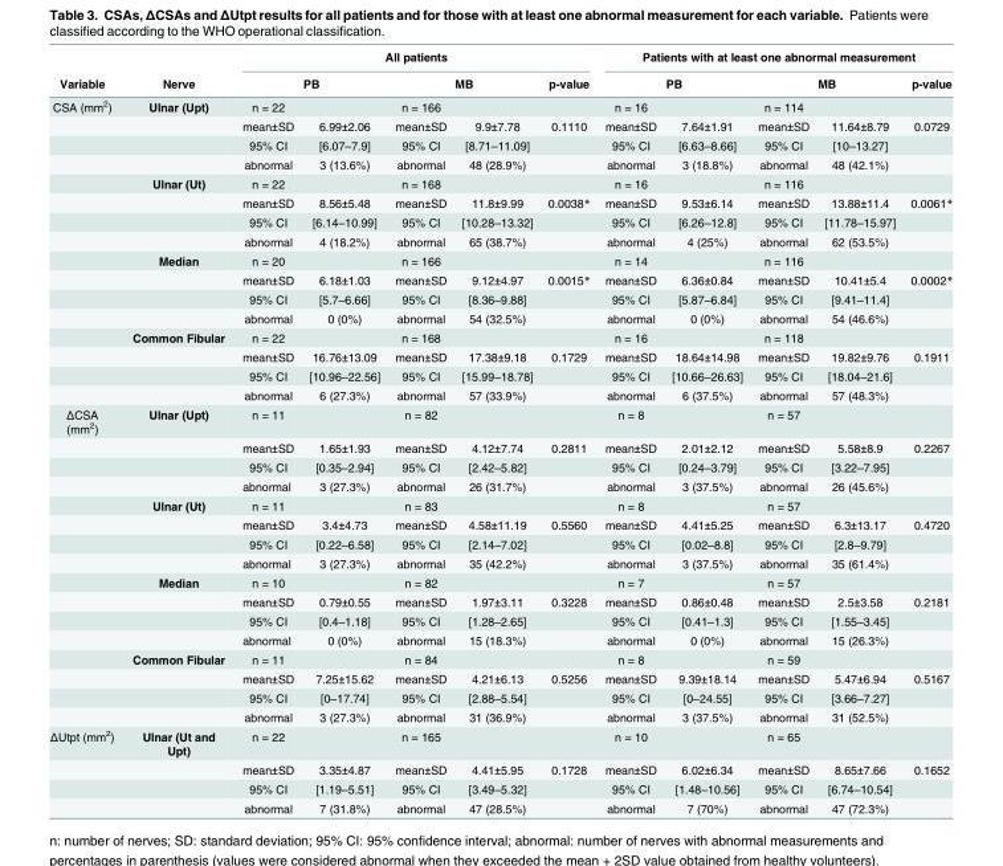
<table><thead><tr><td rowspan="3">Variable CSA (mm<sup>2</sup>)</td><td rowspan="3">Nerve Ulnar (Upt)</td><td colspan="5">All patients</td><td colspan="5">Patients with at least one abnormal measurement</td></tr><tr><td colspan="2">PB</td><td colspan="2">MB</td><td rowspan="2">p-value</td><td colspan="2">PB</td><td colspan="2">MB</td><td rowspan="2">p-value</td></tr><tr><td>n = 22</td><td></td><td>n = 166</td><td></td><td>n = 16</td><td></td><td>n = 114</td><td></td></tr></thead><tbody><tr><td></td><td></td><td>mean±SD</td><td>6.99±2.06</td><td>mean±SD</td><td>9.9±7.78</td><td>0.1110</td><td>mean±SD</td><td>7.64±1.91</td><td>mean±SD</td><td>11.64±8.79</td><td>0.0729</td></tr><tr><td></td><td></td><td>95% CI</td><td>[6.07–7.9]</td><td>95% CI</td><td>[8.71–11.09]</td><td></td><td>95% CI</td><td>[6.63–8.66]</td><td>95% CI</td><td>[10–13.27]</td><td></td></tr><tr><td></td><td></td><td>abnormal</td><td>3 (13.6%)</td><td>abnormal</td><td>48 (28.9%)</td><td></td><td>abnormal</td><td>3 (18.8%)</td><td>abnormal</td><td>48 (42.1%)</td><td></td></tr><tr><td></td><td>Ulnar (Ut)</td><td>n = 22</td><td></td><td>n = 168</td><td></td><td></td><td>n = 16</td><td></td><td>n = 116</td><td></td><td></td></tr><tr><td></td><td></td><td>mean±SD</td><td>8.56±5.48</td><td>mean±SD</td><td>11.8±9.99</td><td>0.0038*</td><td>mean±SD</td><td>9.53±6.14</td><td>mean±SD</td><td>13.88±11.4</td><td>0.0061*</td></tr><tr><td></td><td></td><td>95% CI</td><td>[6.14–10.99]</td><td>95% CI</td><td>[10.28–13.32]</td><td></td><td>95% CI</td><td>[6.26–12.8]</td><td>95% CI</td><td>[11.78–15.97]</td><td></td></tr><tr><td></td><td></td><td>abnormal</td><td>4 (18.2%)</td><td>abnormal</td><td>65 (38.7%)</td><td></td><td>abnormal</td><td>4 (25%)</td><td>abnormal</td><td>62 (53.5%)</td><td></td></tr><tr><td></td><td>Median</td><td>n = 20</td><td></td><td>n = 166</td><td></td><td></td><td>n = 14</td><td></td><td>n = 116</td><td></td><td></td></tr><tr><td></td><td></td><td>mean±SD</td><td>6.18±1.03</td><td>mean±SD</td><td>9.12±4.97</td><td>0.0015*</td><td>mean±SD</td><td>6.36±0.84</td><td>mean±SD</td><td>10.41±5.4</td><td>0.0002*</td></tr><tr><td></td><td></td><td>95% CI</td><td>[5.7–6.66]</td><td>95% CI</td><td>[8.36–9.88]</td><td></td><td>95% CI</td><td>[5.87–6.84]</td><td>95% CI</td><td>[9.41–11.4]</td><td></td></tr><tr><td></td><td></td><td>abnormal</td><td>0 (0%)</td><td>abnormal</td><td>54 (32.5%)</td><td></td><td>abnormal</td><td>0 (0%)</td><td>abnormal</td><td>54 (46.6%)</td><td></td></tr><tr><td></td><td>Common Fibular</td><td>n = 22</td><td></td><td>n = 168</td><td></td><td></td><td>n = 16</td><td></td><td>n = 118</td><td></td><td></td></tr><tr><td></td><td></td><td>mean±SD</td><td>16.76±13.09</td><td>mean±SD</td><td>17.38±9.18</td><td>0.1729</td><td>mean±SD</td><td>18.64±14.98</td><td>mean±SD</td><td>19.82±9.76</td><td>0.1911</td></tr><tr><td></td><td></td><td>95% CI</td><td>[10.96–22.56]</td><td>95% CI</td><td>[15.99–18.78]</td><td></td><td>95% CI</td><td>[10.66–26.63]</td><td>95% CI</td><td>[18.04–21.6]</td><td></td></tr><tr><td></td><td></td><td>abnormal</td><td>6 (27.3%)</td><td>abnormal</td><td>57 (33.9%)</td><td></td><td>abnormal</td><td>6 (37.5%)</td><td>abnormal</td><td>57 (48.3%)</td><td></td></tr><tr><td rowspan="16">ΔCSA (mm<sup>2</sup>)</td><td>Ulnar (Upt)</td><td>n = 11</td><td></td><td>n = 82</td><td></td><td></td><td>n = 8</td><td></td><td>n = 57</td><td></td><td></td></tr><tr><td></td><td>mean±SD</td><td>1.65±1.93</td><td>mean±SD</td><td>4.12±7.74</td><td>0.2811</td><td>mean±SD</td><td>2.01±2.12</td><td>mean±SD</td><td>5.58±8.9</td><td>0.2267</td></tr><tr><td></td><td>95% CI</td><td>[0.35–2.94]</td><td>95% CI</td><td>[2.42–5.82]</td><td></td><td>95% CI</td><td>[0.24–3.79]</td><td>95% CI</td><td>[3.22–7.95]</td><td></td></tr><tr><td></td><td>abnormal</td><td>3 (27.3%)</td><td>abnormal</td><td>26 (31.7%)</td><td></td><td>abnormal</td><td>3 (37.5%)</td><td>abnormal</td><td>26 (45.6%)</td><td></td></tr><tr><td>Ulnar (Ut)</td><td>n = 11</td><td></td><td>n = 83</td><td></td><td></td><td>n = 8</td><td></td><td>n = 57</td><td></td><td></td></tr><tr><td></td><td>mean±SD</td><td>3.4±4.73</td><td>mean±SD</td><td>4.58±11.19</td><td>0.5560</td><td>mean±SD</td><td>4.41±5.25</td><td>mean±SD</td><td>6.3±13.17</td><td>0.4720</td></tr><tr><td></td><td>95% CI</td><td>[0.22–6.58]</td><td>95% CI</td><td>[2.14–7.02]</td><td></td><td>95% CI</td><td>[0.02–8.8]</td><td>95% CI</td><td>[2.8–9.79]</td><td></td></tr><tr><td></td><td>abnormal</td><td>3 (27.3%)</td><td>abnormal</td><td>35 (42.2%)</td><td></td><td>abnormal</td><td>3 (37.5%)</td><td>abnormal</td><td>35 (61.4%)</td><td></td></tr><tr><td>Median</td><td>n = 10</td><td></td><td>n = 82</td><td></td><td></td><td>n = 7</td><td></td><td>n = 57</td><td></td><td></td></tr><tr><td></td><td>mean±SD</td><td>0.79±0.55</td><td>mean±SD</td><td>1.97±3.11</td><td>0.3228</td><td>mean±SD</td><td>0.86±0.48</td><td>mean±SD</td><td>2.5±3.58</td><td>0.2181</td></tr><tr><td></td><td>95% CI</td><td>[0.4–1.18]</td><td>95% CI</td><td>[1.28–2.65]</td><td></td><td>95% CI</td><td>[0.41–1.3]</td><td>95% CI</td><td>[1.55–3.45]</td><td></td></tr><tr><td></td><td>abnormal</td><td>0 (0%)</td><td>abnormal</td><td>15 (18.3%)</td><td></td><td>abnormal</td><td>0 (0%)</td><td>abnormal</td><td>15 (26.3%)</td><td></td></tr><tr><td>Common Fibular</td><td>n = 11</td><td></td><td>n = 84</td><td></td><td></td><td>n = 8</td><td></td><td>n = 59</td><td></td><td></td></tr><tr><td></td><td>mean±SD</td><td>7.25±15.62</td><td>mean±SD</td><td>4.21±6.13</td><td>0.5256</td><td>mean±SD</td><td>9.39±18.14</td><td>mean±SD</td><td>5.47±6.94</td><td>0.5167</td></tr><tr><td></td><td>95% CI</td><td>[0–17.74]</td><td>95% CI</td><td>[2.88–5.54]</td><td></td><td>95% CI</td><td>[0–24.55]</td><td>95% CI</td><td>[3.66–7.27]</td><td></td></tr><tr><td></td><td>abnormal</td><td>3 (27.3%)</td><td>abnormal</td><td>31 (36.9%)</td><td></td><td>abnormal</td><td>3 (37.5%)</td><td>abnormal</td><td>31 (52.5%)</td><td></td></tr><tr><td rowspan="4">ΔUtpt (mm<sup>2</sup>)</td><td>Ulnar (Ut and Upt)</td><td>n = 22</td><td></td><td>n = 165</td><td></td><td></td><td>n = 10</td><td></td><td>n = 65</td><td></td><td></td></tr><tr><td></td><td>mean±SD</td><td>3.35±4.87</td><td>mean±SD</td><td>4.41±5.95</td><td>0.1728</td><td>mean±SD</td><td>6.02±6.34</td><td>mean±SD</td><td>8.65±7.66</td><td>0.1652</td></tr><tr><td></td><td>95% CI</td><td>[1.19–5.51]</td><td>95% CI</td><td>[3.49–5.32]</td><td></td><td>95% CI</td><td>[1.48–10.56]</td><td>95% CI</td><td>[6.74–10.54]</td><td></td></tr><tr><td></td><td>abnormal</td><td>7 (31.8%)</td><td>abnormal</td><td>47 (28.5%)</td><td></td><td>abnormal</td><td>7 (70%)</td><td>abnormal</td><td>47 (72.3%)</td><td></td></tr></tbody></table>